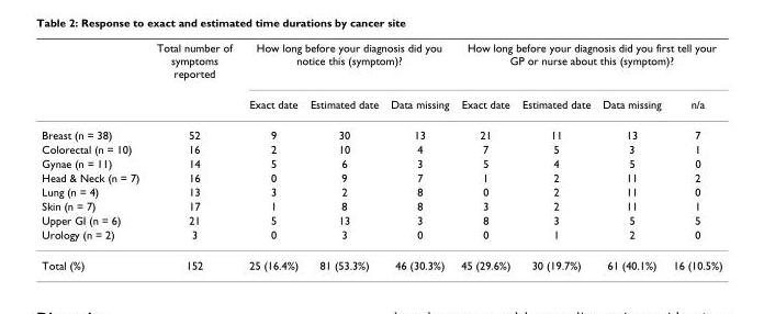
<table><thead><tr><td rowspan="2"></td><td rowspan="2">Total number of symptoms reported</td><td colspan="3">How long before your diagnosis did you notice this (symptom)?</td><td colspan="4">How long before your diagnosis did you first tell your GP or nurse about this (symptom)?</td></tr><tr><td>Exact date</td><td>Estimated date</td><td>Data missing</td><td>Exact date</td><td>Estimated date</td><td>Data missing</td><td>n/a</td></tr></thead><tbody><tr><td>Breast (n = 38)</td><td>52</td><td>9</td><td>30</td><td>13</td><td>21</td><td>11</td><td>13</td><td>7</td></tr><tr><td>Colorectal (n = 10)</td><td>16</td><td>2</td><td>10</td><td>4</td><td>7</td><td>5</td><td>3</td><td>1</td></tr><tr><td>Gynae (n = 11)</td><td>14</td><td>5</td><td>6</td><td>3</td><td>5</td><td>4</td><td>5</td><td>0</td></tr><tr><td>Head &amp; Neck (n = 7)</td><td>16</td><td>0</td><td>9</td><td>7</td><td>1</td><td>2</td><td>11</td><td>2</td></tr><tr><td>Lung (n = 4)</td><td>13</td><td>3</td><td>2</td><td>8</td><td>0</td><td>2</td><td>11</td><td>0</td></tr><tr><td>Skin (n = 7)</td><td>17</td><td>1</td><td>8</td><td>8</td><td>3</td><td>2</td><td>11</td><td>1</td></tr><tr><td>Upper GI (n = 6)</td><td>21</td><td>5</td><td>13</td><td>3</td><td>8</td><td>3</td><td>5</td><td>5</td></tr><tr><td>Urology (n = 2)</td><td>3</td><td>0</td><td>3</td><td>0</td><td>0</td><td>1</td><td>2</td><td>0</td></tr><tr><td>Total (%)</td><td>152</td><td>25 (16.4%)</td><td>81 (53.3%)</td><td>46 (30.3%)</td><td>45 (29.6%)</td><td>30 (19.7%)</td><td>61 (40.1%)</td><td>16 (10.5%)</td></tr></tbody></table>